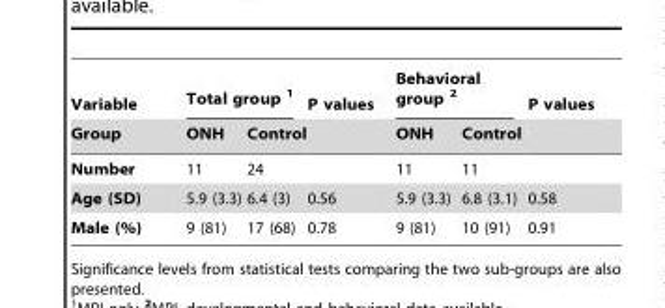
<table><thead><tr><td rowspan="2">Variable Group</td><td colspan="2">Total group 1</td><td rowspan="2">P values</td><td colspan="2">Behavioral group <sup>2</sup></td><td rowspan="2">P values</td></tr><tr><td>ONH</td><td>Control</td><td>ONH</td><td>Control</td></tr></thead><tbody><tr><td>Number</td><td>11</td><td>24</td><td></td><td>11</td><td>11</td><td></td></tr><tr><td>Age (SD)</td><td>5.9 (3.3)</td><td>6.4 (3)</td><td>0.56</td><td>5.9 (3.3)</td><td>6.8 (3.1)</td><td>0.58</td></tr><tr><td>Male (%)</td><td>9 (81)</td><td>17 (68)</td><td>0.78</td><td>9 (81)</td><td>10 (91)</td><td>0.91</td></tr></tbody></table>